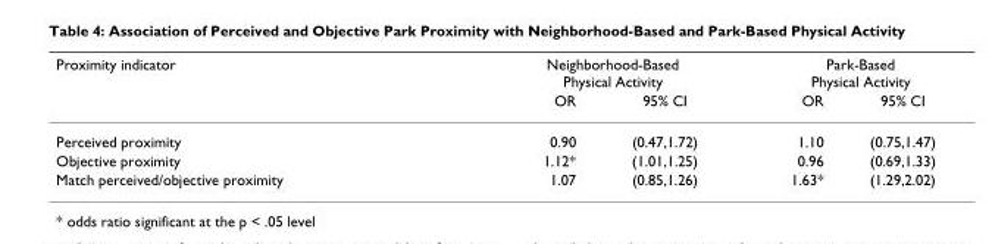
<table><thead><tr><td rowspan="2">Proximity indicator</td><td colspan="2">Neighborhood-Based Physical Activity</td><td colspan="2">Park-Based Physical Activity</td></tr><tr><td>OR</td><td>95% CI</td><td>OR</td><td>95% CI</td></tr></thead><tbody><tr><td>Perceived proximity</td><td>0.90</td><td>(0.47,1.72)</td><td>1.10</td><td>(0.75,1.47)</td></tr><tr><td>Objective proximity</td><td>1.12*</td><td>(1.01,1.25)</td><td>0.96</td><td>(0.69,1.33)</td></tr><tr><td>Match perceived/objective proximity</td><td>1.07</td><td>(0.85,1.26)</td><td>1.63*</td><td>(1.29,2.02)</td></tr></tbody></table>